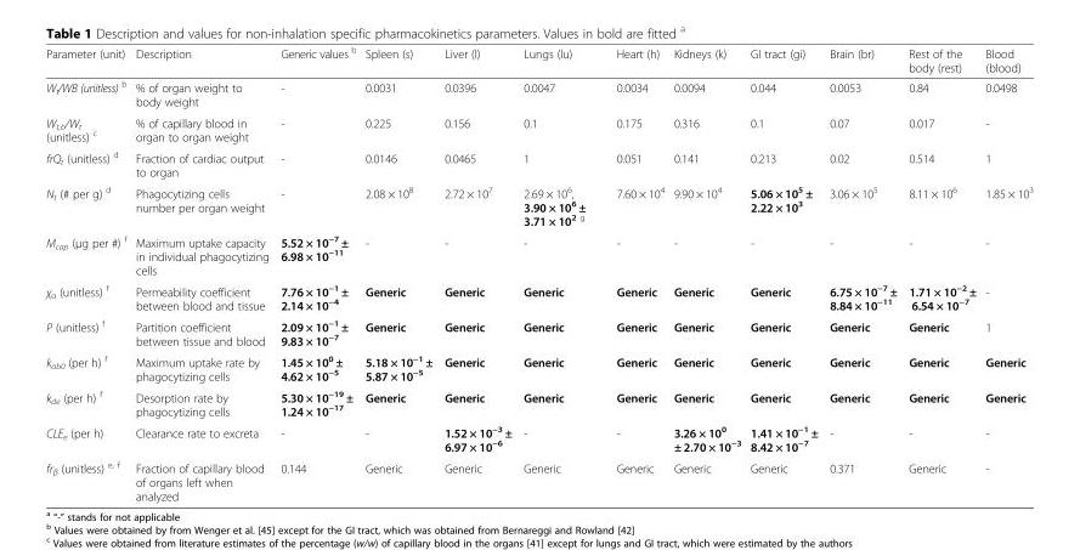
<table><thead><tr><td>Parameter (unit)</td><td>Description</td><td>Generic values <sup>b</sup></td><td>Spleen (s)</td><td>Liver (l)</td><td>Lungs (lu)</td><td>Heart (h)</td><td>Kidneys (k)</td><td>GI tract (gi)</td><td>Brain (br)</td><td>Rest of the body (rest)</td><td>Blood (blood)</td></tr></thead><tbody><tr><td>W<sub>t</sub>/WB (unitless) <sup>b</sup></td><td>% of organ weight to body weight</td><td>-</td><td>0.0031</td><td>0.0396</td><td>0.0047</td><td>0.0034</td><td>0.0094</td><td>0.044</td><td>0.0053</td><td>0.84</td><td>0.0498</td></tr><tr><td>W<sub>t,b</sub>/W<sub>t</sub> (unitless) <sup>c</sup></td><td>% of capillary blood in organ to organ weight</td><td>-</td><td>0.225</td><td>0.156</td><td>0.1</td><td>0.175</td><td>0.316</td><td>0.1</td><td>0.07</td><td>0.017</td><td>-</td></tr><tr><td>frQ<sub>t</sub> (unitless) <sup>d</sup></td><td>Fraction of cardiac output to organ</td><td>-</td><td>0.0146</td><td>0.0465</td><td>1</td><td>0.051</td><td>0.141</td><td>0.213</td><td>0.02</td><td>0.514</td><td>1</td></tr><tr><td>N<sub>t</sub> (# per g) <sup>d</sup></td><td>Phagocytizing cells number per organ weight</td><td>-</td><td>2.08 × 10<sup>8</sup></td><td>2.72 × 10<sup>7</sup></td><td>2.69 × 10<sup>6</sup>, 3.90 × 10<sup>6</sup> ± 3.71 × 10<sup>2 g</sup></td><td>7.60 × 10<sup>4</sup></td><td>9.90 × 10<sup>4</sup></td><td>5.06 × 10<sup>5</sup> ± 2.22 × 10<sup>3</sup></td><td>3.06 × 10<sup>5</sup></td><td>8.11 × 10<sup>6</sup></td><td>1.85 × 10<sup>3</sup></td></tr><tr><td>M<sub>cap</sub> (μg per #) <sup>f</sup></td><td>Maximum uptake capacity in individual phagocytizing cells</td><td>5.52 × 10<sup>−7</sup> ± 6.98 × 10<sup>−11</sup></td><td>-</td><td>-</td><td>-</td><td>-</td><td>-</td><td>-</td><td>-</td><td>-</td><td>-</td></tr><tr><td>χ<sub>α</sub> (unitless) <sup>f</sup></td><td>Permeability coefficient between blood and tissue</td><td>7.76 × 10<sup>−1</sup> ± 2.14 × 10<sup>−4</sup></td><td>Generic</td><td>Generic</td><td>Generic</td><td>Generic</td><td>Generic</td><td>Generic</td><td>6.75 × 10<sup>−7</sup> ± 8.84 × 10<sup>−11</sup></td><td>1.71 × 10<sup>−2</sup> ± 6.54 × 10<sup>−7</sup></td><td>-</td></tr><tr><td>P (unitless) <sup>f</sup></td><td>Partition coefficient between tissue and blood</td><td>2.09 × 10<sup>−1</sup> ± 9.83 × 10<sup>−7</sup></td><td>Generic</td><td>Generic</td><td>Generic</td><td>Generic</td><td>Generic</td><td>Generic</td><td>Generic</td><td>Generic</td><td>1</td></tr><tr><td>k<sub>ab0</sub> (per h) <sup>f</sup></td><td>Maximum uptake rate by phagocytizing cells</td><td>1.45 × 10<sup>0</sup> ± 4.62 × 10<sup>−5</sup></td><td>5.18 × 10<sup>−1</sup> ± 5.87 × 10<sup>−5</sup></td><td>Generic</td><td>Generic</td><td>Generic</td><td>Generic</td><td>Generic</td><td>Generic</td><td>Generic</td><td>Generic</td></tr><tr><td>k<sub>de</sub> (per h) <sup>f</sup></td><td>Desorption rate by phagocytizing cells</td><td>5.30 × 10<sup>−19</sup> ± 1.24 × 10<sup>−17</sup></td><td>Generic</td><td>Generic</td><td>Generic</td><td>Generic</td><td>Generic</td><td>Generic</td><td>Generic</td><td>Generic</td><td>Generic</td></tr><tr><td>CLE<sub>e</sub> (per h)</td><td>Clearance rate to excreta</td><td>-</td><td>-</td><td>1.52 × 10<sup>−3</sup> ± 6.97 × 10<sup>−6</sup></td><td>-</td><td>-</td><td>3.26 × 10<sup>0</sup> ± 2.70 × 10<sup>−3</sup></td><td>1.41 × 10<sup>−1</sup> ± 8.42 × 10<sup>−7</sup></td><td>-</td><td>-</td><td>-</td></tr><tr><td>fr<sub>β</sub> (unitless) <sup>e, f</sup></td><td>Fraction of capillary blood of organs left when analyzed</td><td>0.144</td><td>Generic</td><td>Generic</td><td>Generic</td><td>Generic</td><td>Generic</td><td>Generic</td><td>0.371</td><td>Generic</td><td>-</td></tr></tbody></table>